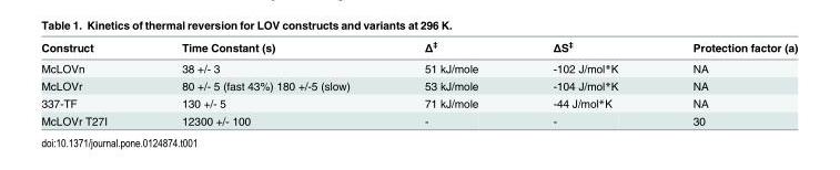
<table><thead><tr><td>Construct</td><td>Time Constant (s)</td><td>Δ<sup>‡</sup></td><td>ΔS<sup>‡</sup></td><td>Protection factor (a)</td></tr></thead><tbody><tr><td>McLOVn</td><td>38 +/- 3</td><td>51 kJ/mole</td><td>-102 J/mol*K</td><td>NA</td></tr><tr><td>McLOVr</td><td>80 +/- 5 (fast 43%) 180 +/-5 (slow)</td><td>53 kJ/mole</td><td>-104 J/mol*K</td><td>NA</td></tr><tr><td>337-TF</td><td>130 +/- 5</td><td>71 kJ/mole</td><td>-44 J/mol*K</td><td>NA</td></tr><tr><td>McLOVr T27I</td><td>12300 +/- 100</td><td>-</td><td>-</td><td>30</td></tr></tbody></table>